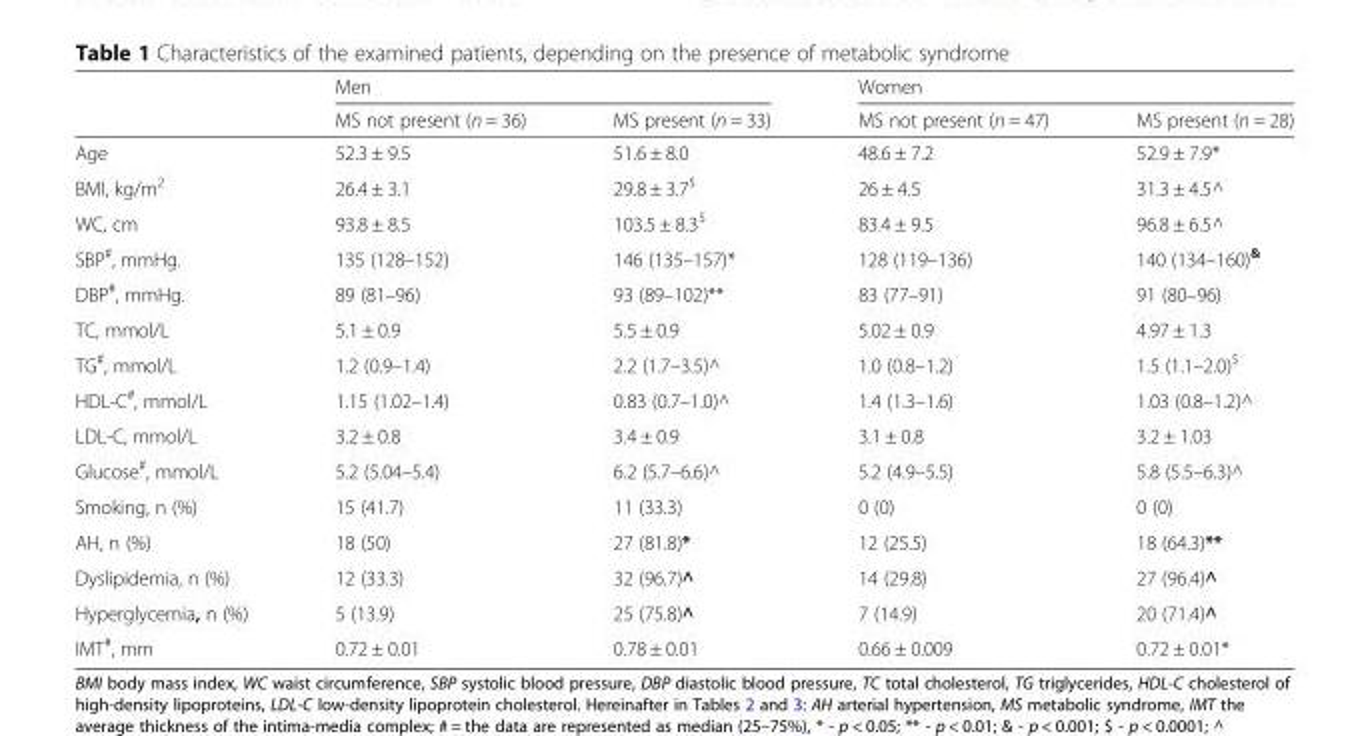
<table><thead><tr><td rowspan="2"></td><td colspan="2">Men</td><td colspan="2">Women</td></tr><tr><td>MS not present (n = 36)</td><td>MS present (n = 33)</td><td>MS not present (n = 47)</td><td>MS present (n = 28)</td></tr></thead><tbody><tr><td>Age</td><td>52.3 ± 9.5</td><td>51.6 ± 8.0</td><td>48.6 ± 7.2</td><td>52.9 ± 7.9*</td></tr><tr><td>BMI, kg/m<sup>2</sup></td><td>26.4 ± 3.1</td><td>29.8 ± 3.7<sup>$</sup></td><td>26 ± 4.5</td><td>31.3 ± 4.5^</td></tr><tr><td>WC, cm</td><td>93.8 ± 8.5</td><td>103.5 ± 8.3<sup>$</sup></td><td>83.4 ± 9.5</td><td>96.8 ± 6.5^</td></tr><tr><td>SBP<sup>#</sup>, mmHg.</td><td>135 (128–152)</td><td>146 (135–157)*</td><td>128 (119–136)</td><td>140 (134–160)<sup>&amp;</sup></td></tr><tr><td>DBP<sup>#</sup>, mmHg.</td><td>89 (81–96)</td><td>93 (89–102)**</td><td>83 (77–91)</td><td>91 (80–96)</td></tr><tr><td>TC, mmol/L</td><td>5.1 ± 0.9</td><td>5.5 ± 0.9</td><td>5.02 ± 0.9</td><td>4.97 ± 1.3</td></tr><tr><td>TG<sup>#</sup>, mmol/L</td><td>1.2 (0.9–1.4)</td><td>2.2 (1.7–3.5)^</td><td>1.0 (0.8–1.2)</td><td>1.5 (1.1–2.0)<sup>$</sup></td></tr><tr><td>HDL-C<sup>#</sup>, mmol/L</td><td>1.15 (1.02–1.4)</td><td>0.83 (0.7–1.0)^</td><td>1.4 (1.3–1.6)</td><td>1.03 (0.8–1.2)^</td></tr><tr><td>LDL-C, mmol/L</td><td>3.2 ± 0.8</td><td>3.4 ± 0.9</td><td>3.1 ± 0.8</td><td>3.2 ± 1.03</td></tr><tr><td>Glucose<sup>#</sup>, mmol/L</td><td>5.2 (5.04–5.4)</td><td>6.2 (5.7–6.6)^</td><td>5.2 (4.9–5.5)</td><td>5.8 (5.5–6.3)^</td></tr><tr><td>Smoking, n (%)</td><td>15 (41.7)</td><td>11 (33.3)</td><td>0 (0)</td><td>0 (0)</td></tr><tr><td>AH, n (%)</td><td>18 (50)</td><td>27 (81.8)*</td><td>12 (25.5)</td><td>18 (64.3)**</td></tr><tr><td>Dyslipidemia, n (%)</td><td>12 (33.3)</td><td>32 (96.7)^</td><td>14 (29.8)</td><td>27 (96.4)^</td></tr><tr><td>Hyperglycemia, n (%)</td><td>5 (13.9)</td><td>25 (75.8)^</td><td>7 (14.9)</td><td>20 (71.4)^</td></tr><tr><td>IMT<sup>#</sup>, mm</td><td>0.72 ± 0.01</td><td>0.78 ± 0.01</td><td>0.66 ± 0.009</td><td>0.72 ± 0.01*</td></tr></tbody></table>